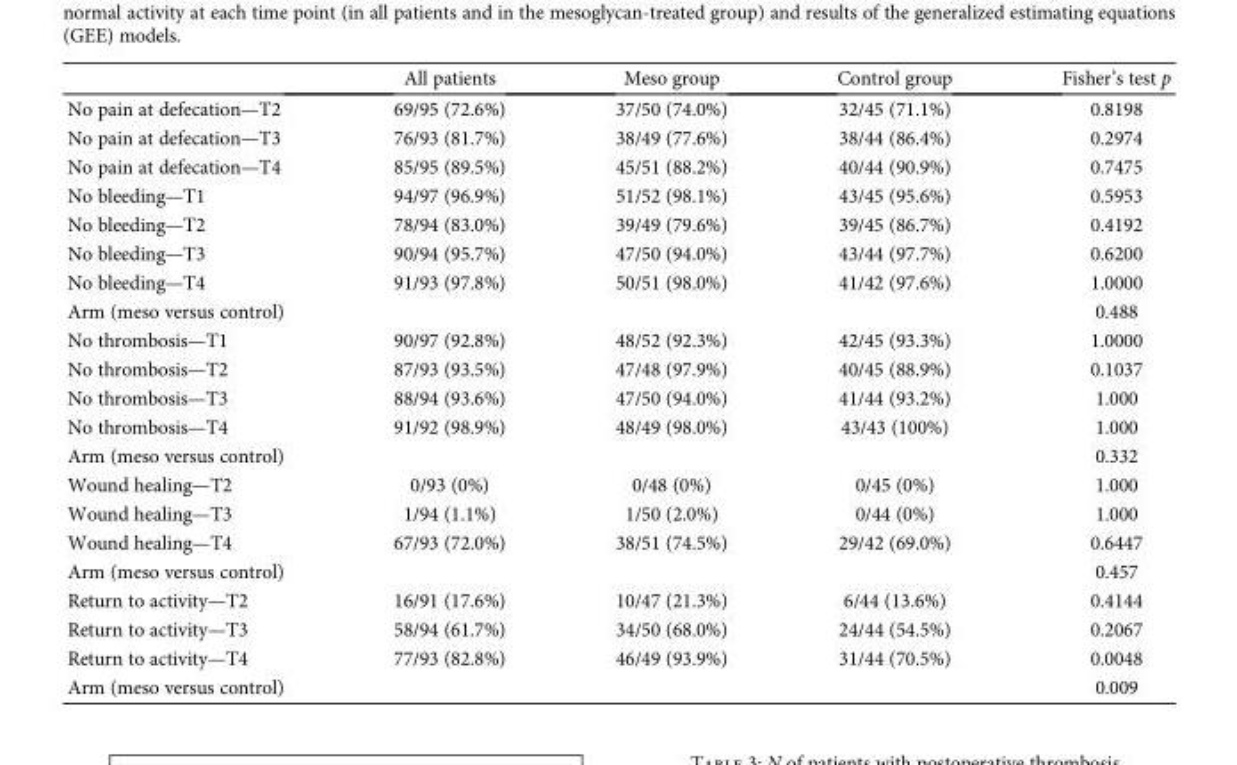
<table><thead><tr><td></td><td>All patients</td><td>Meso group</td><td>Control group</td><td>Fisher’s test p</td></tr></thead><tbody><tr><td>No pain at defecation—T2</td><td>69/95 (72.6%)</td><td>37/50 (74.0%)</td><td>32/45 (71.1%)</td><td>0.8198</td></tr><tr><td>No pain at defecation—T3</td><td>76/93 (81.7%)</td><td>38/49 (77.6%)</td><td>38/44 (86.4%)</td><td>0.2974</td></tr><tr><td>No pain at defecation—T4</td><td>85/95 (89.5%)</td><td>45/51 (88.2%)</td><td>40/44 (90.9%)</td><td>0.7475</td></tr><tr><td>No bleeding—T1</td><td>94/97 (96.9%)</td><td>51/52 (98.1%)</td><td>43/45 (95.6%)</td><td>0.5953</td></tr><tr><td>No bleeding—T2</td><td>78/94 (83.0%)</td><td>39/49 (79.6%)</td><td>39/45 (86.7%)</td><td>0.4192</td></tr><tr><td>No bleeding—T3</td><td>90/94 (95.7%)</td><td>47/50 (94.0%)</td><td>43/44 (97.7%)</td><td>0.6200</td></tr><tr><td>No bleeding—T4</td><td>91/93 (97.8%)</td><td>50/51 (98.0%)</td><td>41/42 (97.6%)</td><td>1.0000</td></tr><tr><td>Arm (meso versus control)</td><td></td><td></td><td></td><td>0.488</td></tr><tr><td>No thrombosis—T1</td><td>90/97 (92.8%)</td><td>48/52 (92.3%)</td><td>42/45 (93.3%)</td><td>1.0000</td></tr><tr><td>No thrombosis—T2</td><td>87/93 (93.5%)</td><td>47/48 (97.9%)</td><td>40/45 (88.9%)</td><td>0.1037</td></tr><tr><td>No thrombosis—T3</td><td>88/94 (93.6%)</td><td>47/50 (94.0%)</td><td>41/44 (93.2%)</td><td>1.000</td></tr><tr><td>No thrombosis—T4</td><td>91/92 (98.9%)</td><td>48/49 (98.0%)</td><td>43/43 (100%)</td><td>1.000</td></tr><tr><td>Arm (meso versus control)</td><td></td><td></td><td></td><td>0.332</td></tr><tr><td>Wound healing—T2</td><td>0/93 (0%)</td><td>0/48 (0%)</td><td>0/45 (0%)</td><td>1.000</td></tr><tr><td>Wound healing—T3</td><td>1/94 (1.1%)</td><td>1/50 (2.0%)</td><td>0/44 (0%)</td><td>1.000</td></tr><tr><td>Wound healing—T4</td><td>67/93 (72.0%)</td><td>38/51 (74.5%)</td><td>29/42 (69.0%)</td><td>0.6447</td></tr><tr><td>Arm (meso versus control)</td><td></td><td></td><td></td><td>0.457</td></tr><tr><td>Return to activity—T2</td><td>16/91 (17.6%)</td><td>10/47 (21.3%)</td><td>6/44 (13.6%)</td><td>0.4144</td></tr><tr><td>Return to activity—T3</td><td>58/94 (61.7%)</td><td>34/50 (68.0%)</td><td>24/44 (54.5%)</td><td>0.2067</td></tr><tr><td>Return to activity—T4</td><td>77/93 (82.8%)</td><td>46/49 (93.9%)</td><td>31/44 (70.5%)</td><td>0.0048</td></tr><tr><td>Arm (meso versus control)</td><td></td><td></td><td></td><td>0.009</td></tr></tbody></table>